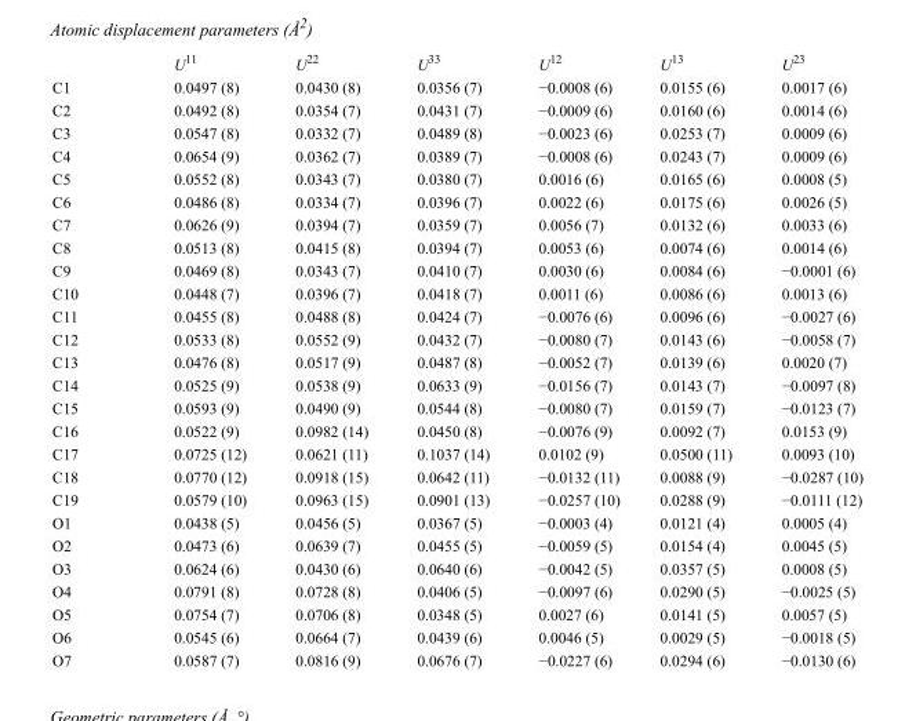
<table><thead><tr><td></td><td>U<sup>11</sup></td><td>U<sup>22</sup></td><td>U<sup>33</sup></td><td>U<sup>12</sup></td><td>U<sup>13</sup></td><td>U<sup>23</sup></td></tr></thead><tbody><tr><td>C1</td><td>0.0497 (8)</td><td>0.0430 (8)</td><td>0.0356 (7)</td><td>−0.0008 (6)</td><td>0.0155 (6)</td><td>0.0017 (6)</td></tr><tr><td>C2</td><td>0.0492 (8)</td><td>0.0354 (7)</td><td>0.0431 (7)</td><td>−0.0009 (6)</td><td>0.0160 (6)</td><td>0.0014 (6)</td></tr><tr><td>C3</td><td>0.0547 (8)</td><td>0.0332 (7)</td><td>0.0489 (8)</td><td>−0.0023 (6)</td><td>0.0253 (7)</td><td>0.0009 (6)</td></tr><tr><td>C4</td><td>0.0654 (9)</td><td>0.0362 (7)</td><td>0.0389 (7)</td><td>−0.0008 (6)</td><td>0.0243 (7)</td><td>0.0009 (6)</td></tr><tr><td>C5</td><td>0.0552 (8)</td><td>0.0343 (7)</td><td>0.0380 (7)</td><td>0.0016 (6)</td><td>0.0165 (6)</td><td>0.0008 (5)</td></tr><tr><td>C6</td><td>0.0486 (8)</td><td>0.0334 (7)</td><td>0.0396 (7)</td><td>0.0022 (6)</td><td>0.0175 (6)</td><td>0.0026 (5)</td></tr><tr><td>C7</td><td>0.0626 (9)</td><td>0.0394 (7)</td><td>0.0359 (7)</td><td>0.0056 (7)</td><td>0.0132 (6)</td><td>0.0033 (6)</td></tr><tr><td>C8</td><td>0.0513 (8)</td><td>0.0415 (8)</td><td>0.0394 (7)</td><td>0.0053 (6)</td><td>0.0074 (6)</td><td>0.0014 (6)</td></tr><tr><td>C9</td><td>0.0469 (8)</td><td>0.0343 (7)</td><td>0.0410 (7)</td><td>0.0030 (6)</td><td>0.0084 (6)</td><td>−0.0001 (6)</td></tr><tr><td>C10</td><td>0.0448 (7)</td><td>0.0396 (7)</td><td>0.0418 (7)</td><td>0.0011 (6)</td><td>0.0086 (6)</td><td>0.0013 (6)</td></tr><tr><td>C11</td><td>0.0455 (8)</td><td>0.0488 (8)</td><td>0.0424 (7)</td><td>−0.0076 (6)</td><td>0.0096 (6)</td><td>−0.0027 (6)</td></tr><tr><td>C12</td><td>0.0533 (8)</td><td>0.0552 (9)</td><td>0.0432 (7)</td><td>−0.0080 (7)</td><td>0.0143 (6)</td><td>−0.0058 (7)</td></tr><tr><td>C13</td><td>0.0476 (8)</td><td>0.0517 (9)</td><td>0.0487 (8)</td><td>−0.0052 (7)</td><td>0.0139 (6)</td><td>0.0020 (7)</td></tr><tr><td>C14</td><td>0.0525 (9)</td><td>0.0538 (9)</td><td>0.0633 (9)</td><td>−0.0156 (7)</td><td>0.0143 (7)</td><td>−0.0097 (8)</td></tr><tr><td>C15</td><td>0.0593 (9)</td><td>0.0490 (9)</td><td>0.0544 (8)</td><td>−0.0080 (7)</td><td>0.0159 (7)</td><td>−0.0123 (7)</td></tr><tr><td>C16</td><td>0.0522 (9)</td><td>0.0982 (14)</td><td>0.0450 (8)</td><td>−0.0076 (9)</td><td>0.0092 (7)</td><td>0.0153 (9)</td></tr><tr><td>C17</td><td>0.0725 (12)</td><td>0.0621 (11)</td><td>0.1037 (14)</td><td>0.0102 (9)</td><td>0.0500 (11)</td><td>0.0093 (10)</td></tr><tr><td>C18</td><td>0.0770 (12)</td><td>0.0918 (15)</td><td>0.0642 (11)</td><td>−0.0132 (11)</td><td>0.0088 (9)</td><td>−0.0287 (10)</td></tr><tr><td>C19</td><td>0.0579 (10)</td><td>0.0963 (15)</td><td>0.0901 (13)</td><td>−0.0257 (10)</td><td>0.0288 (9)</td><td>−0.0111 (12)</td></tr><tr><td>O1</td><td>0.0438 (5)</td><td>0.0456 (5)</td><td>0.0367 (5)</td><td>−0.0003 (4)</td><td>0.0121 (4)</td><td>0.0005 (4)</td></tr><tr><td>O2</td><td>0.0473 (6)</td><td>0.0639 (7)</td><td>0.0455 (5)</td><td>−0.0059 (5)</td><td>0.0154 (4)</td><td>0.0045 (5)</td></tr><tr><td>O3</td><td>0.0624 (6)</td><td>0.0430 (6)</td><td>0.0640 (6)</td><td>−0.0042 (5)</td><td>0.0357 (5)</td><td>0.0008 (5)</td></tr><tr><td>O4</td><td>0.0791 (8)</td><td>0.0728 (8)</td><td>0.0406 (5)</td><td>−0.0097 (6)</td><td>0.0290 (5)</td><td>−0.0025 (5)</td></tr><tr><td>O5</td><td>0.0754 (7)</td><td>0.0706 (8)</td><td>0.0348 (5)</td><td>0.0027 (6)</td><td>0.0141 (5)</td><td>0.0057 (5)</td></tr><tr><td>O6</td><td>0.0545 (6)</td><td>0.0664 (7)</td><td>0.0439 (6)</td><td>0.0046 (5)</td><td>0.0029 (5)</td><td>−0.0018 (5)</td></tr><tr><td>O7</td><td>0.0587 (7)</td><td>0.0816 (9)</td><td>0.0676 (7)</td><td>−0.0227 (6)</td><td>0.0294 (6)</td><td>−0.0130 (6)</td></tr></tbody></table>